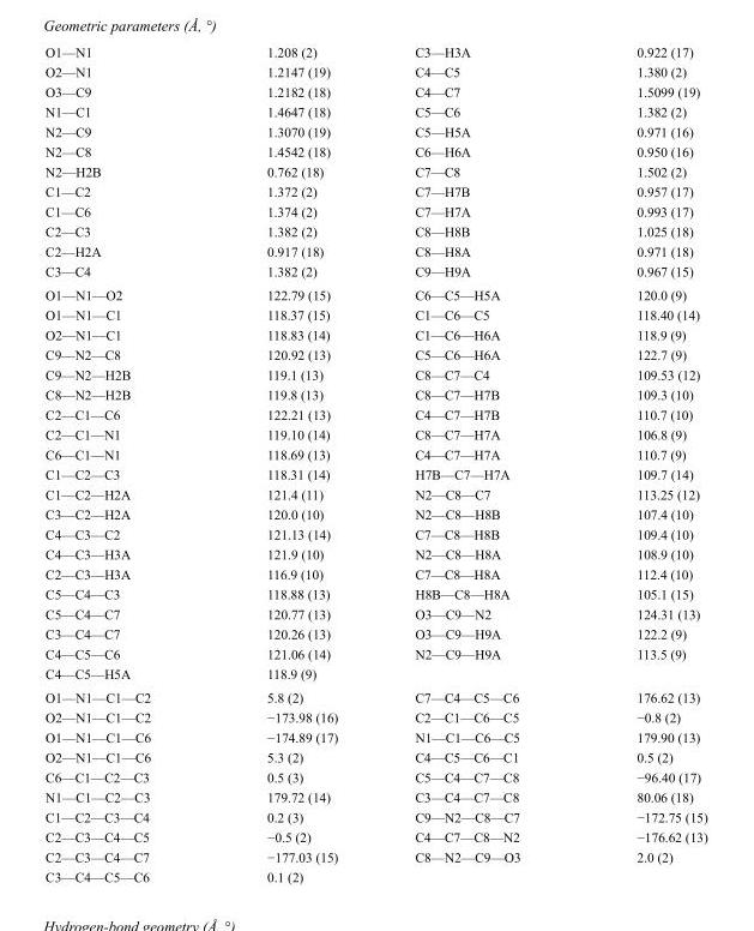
<table><tbody><tr><td>O1—N1</td><td>1.208 (2)</td><td>C3—H3A</td><td>0.922 (17)</td></tr><tr><td>O2—N1</td><td>1.2147 (19)</td><td>C4—C5</td><td>1.380 (2)</td></tr><tr><td>O3—C9</td><td>1.2182 (18)</td><td>C4—C7</td><td>1.5099 (19)</td></tr><tr><td>N1—C1</td><td>1.4647 (18)</td><td>C5—C6</td><td>1.382 (2)</td></tr><tr><td>N2—C9</td><td>1.3070 (19)</td><td>C5—H5A</td><td>0.971 (16)</td></tr><tr><td>N2—C8</td><td>1.4542 (18)</td><td>C6—H6A</td><td>0.950 (16)</td></tr><tr><td>N2—H2B</td><td>0.762 (18)</td><td>C7—C8</td><td>1.502 (2)</td></tr><tr><td>C1—C2</td><td>1.372 (2)</td><td>C7—H7B</td><td>0.957 (17)</td></tr><tr><td>C1—C6</td><td>1.374 (2)</td><td>C7—H7A</td><td>0.993 (17)</td></tr><tr><td>C2—C3</td><td>1.382 (2)</td><td>C8—H8B</td><td>1.025 (18)</td></tr><tr><td>C2—H2A</td><td>0.917 (18)</td><td>C8—H8A</td><td>0.971 (18)</td></tr><tr><td>C3—C4</td><td>1.382 (2)</td><td>C9—H9A</td><td>0.967 (15)</td></tr><tr><td>O1—N1—O2</td><td>122.79 (15)</td><td>C6—C5—H5A</td><td>120.0 (9)</td></tr><tr><td>O1—N1—C1</td><td>118.37 (15)</td><td>C1—C6—C5</td><td>118.40 (14)</td></tr><tr><td>O2—N1—C1</td><td>118.83 (14)</td><td>C1—C6—H6A</td><td>118.9 (9)</td></tr><tr><td>C9—N2—C8</td><td>120.92 (13)</td><td>C5—C6—H6A</td><td>122.7 (9)</td></tr><tr><td>C9—N2—H2B</td><td>119.1 (13)</td><td>C8—C7—C4</td><td>109.53 (12)</td></tr><tr><td>C8—N2—H2B</td><td>119.8 (13)</td><td>C8—C7—H7B</td><td>109.3 (10)</td></tr><tr><td>C2—C1—C6</td><td>122.21 (13)</td><td>C4—C7—H7B</td><td>110.7 (10)</td></tr><tr><td>C2—C1—N1</td><td>119.10 (14)</td><td>C8—C7—H7A</td><td>106.8 (9)</td></tr><tr><td>C6—C1—N1</td><td>118.69 (13)</td><td>C4—C7—H7A</td><td>110.7 (9)</td></tr><tr><td>C1—C2—C3</td><td>118.31 (14)</td><td>H7B—C7—H7A</td><td>109.7 (14)</td></tr><tr><td>C1—C2—H2A</td><td>121.4 (11)</td><td>N2—C8—C7</td><td>113.25 (12)</td></tr><tr><td>C3—C2—H2A</td><td>120.0 (10)</td><td>N2—C8—H8B</td><td>107.4 (10)</td></tr><tr><td>C4—C3—C2</td><td>121.13 (14)</td><td>C7—C8—H8B</td><td>109.4 (10)</td></tr><tr><td>C4—C3—H3A</td><td>121.9 (10)</td><td>N2—C8—H8A</td><td>108.9 (10)</td></tr><tr><td>C2—C3—H3A</td><td>116.9 (10)</td><td>C7—C8—H8A</td><td>112.4 (10)</td></tr><tr><td>C5—C4—C3</td><td>118.88 (13)</td><td>H8B—C8—H8A</td><td>105.1 (15)</td></tr><tr><td>C5—C4—C7</td><td>120.77 (13)</td><td>O3—C9—N2</td><td>124.31 (13)</td></tr><tr><td>C3—C4—C7</td><td>120.26 (13)</td><td>O3—C9—H9A</td><td>122.2 (9)</td></tr><tr><td>C4—C5—C6</td><td>121.06 (14)</td><td>N2—C9—H9A</td><td>113.5 (9)</td></tr><tr><td>C4—C5—H5A</td><td>118.9 (9)</td><td></td><td></td></tr><tr><td>O1—N1—C1—C2</td><td>5.8 (2)</td><td>C7—C4—C5—C6</td><td>176.62 (13)</td></tr><tr><td>O2—N1—C1—C2</td><td>−173.98 (16)</td><td>C2—C1—C6—C5</td><td>−0.8 (2)</td></tr><tr><td>O1—N1—C1—C6</td><td>−174.89 (17)</td><td>N1—C1—C6—C5</td><td>179.90 (13)</td></tr><tr><td>O2—N1—C1—C6</td><td>5.3 (2)</td><td>C4—C5—C6—C1</td><td>0.5 (2)</td></tr><tr><td>C6—C1—C2—C3</td><td>0.5 (3)</td><td>C5—C4—C7—C8</td><td>−96.40 (17)</td></tr><tr><td>N1—C1—C2—C3</td><td>179.72 (14)</td><td>C3—C4—C7—C8</td><td>80.06 (18)</td></tr><tr><td>C1—C2—C3—C4</td><td>0.2 (3)</td><td>C9—N2—C8—C7</td><td>−172.75 (15)</td></tr><tr><td>C2—C3—C4—C5</td><td>−0.5 (2)</td><td>C4—C7—C8—N2</td><td>−176.62 (13)</td></tr><tr><td>C2—C3—C4—C7</td><td>−177.03 (15)</td><td>C8—N2—C9—O3</td><td>2.0 (2)</td></tr><tr><td>C3—C4—C5—C6</td><td>0.1 (2)</td><td></td><td></td></tr></tbody></table>